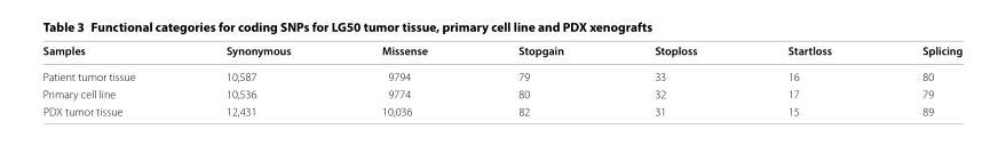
<table><thead><tr><td>Samples</td><td>Synonymous</td><td>Missense</td><td>Stopgain</td><td>Stoploss</td><td>Startloss</td><td>Splicing</td></tr></thead><tbody><tr><td>Patient tumor tissue</td><td>10,587</td><td>9794</td><td>79</td><td>33</td><td>16</td><td>80</td></tr><tr><td>Primary cell line</td><td>10,536</td><td>9774</td><td>80</td><td>32</td><td>17</td><td>79</td></tr><tr><td>PDX tumor tissue</td><td>12,431</td><td>10,036</td><td>82</td><td>31</td><td>15</td><td>89</td></tr></tbody></table>